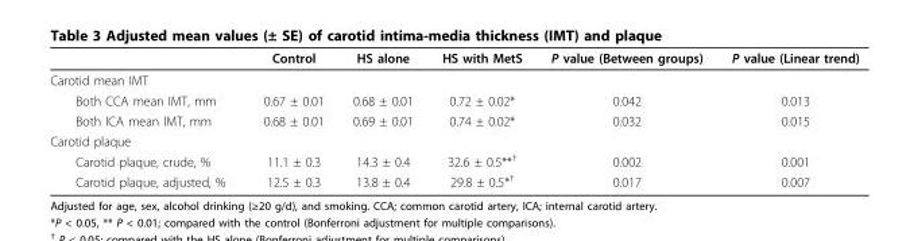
<table><thead><tr><td></td><td>Control</td><td>HS alone</td><td>HS with MetS</td><td>P value (Between groups)</td><td>P value (Linear trend)</td></tr></thead><tbody><tr><td colspan="6">Carotid mean IMT</td></tr><tr><td>Both CCA mean IMT, mm</td><td>0.67 ± 0.01</td><td>0.68 ± 0.01</td><td>0.72 ± 0.02*</td><td>0.042</td><td>0.013</td></tr><tr><td>Both ICA mean IMT, mm</td><td>0.68 ± 0.01</td><td>0.69 ± 0.01</td><td>0.74 ± 0.02*</td><td>0.032</td><td>0.015</td></tr><tr><td colspan="6">Carotid plaque</td></tr><tr><td>Carotid plaque, crude, %</td><td>11.1 ± 0.3</td><td>14.3 ± 0.4</td><td>32.6 ± 0.5**<sup>†</sup></td><td>0.002</td><td>0.001</td></tr><tr><td>Carotid plaque, adjusted, %</td><td>12.5 ± 0.3</td><td>13.8 ± 0.4</td><td>29.8 ± 0.5*<sup>†</sup></td><td>0.017</td><td>0.007</td></tr></tbody></table>